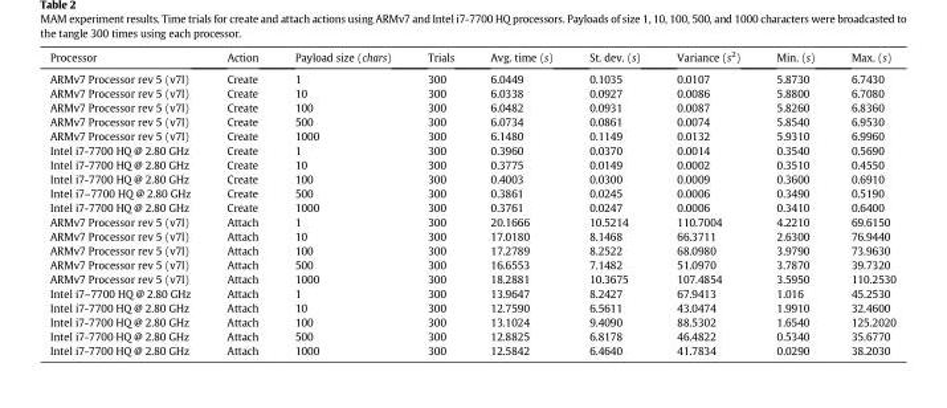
<table><thead><tr><td>Processor</td><td>Action</td><td>Payload size (chars)</td><td>Trials</td><td>Avg. time (s)</td><td>St. dev. (s)</td><td>Variance (s<sup>2</sup>)</td><td>Min. (s)</td><td>Max. (s)</td></tr></thead><tbody><tr><td>ARMv7 Processor rev 5 (v7l)</td><td>Create</td><td>1</td><td>300</td><td>6.0449</td><td>0.1035</td><td>0.0107</td><td>5.8730</td><td>6.7430</td></tr><tr><td>ARMv7 Processor rev 5 (v7l)</td><td>Create</td><td>10</td><td>300</td><td>6.0338</td><td>0.0927</td><td>0.0086</td><td>5.8800</td><td>6.7080</td></tr><tr><td>ARMv7 Processor rev 5 (v7l)</td><td>Create</td><td>100</td><td>300</td><td>6.0482</td><td>0.0931</td><td>0.0087</td><td>5.8260</td><td>6.8360</td></tr><tr><td>ARMv7 Processor rev 5 (v7l)</td><td>Create</td><td>500</td><td>300</td><td>6.0734</td><td>0.0861</td><td>0.0074</td><td>5.8540</td><td>6.9530</td></tr><tr><td>ARMv7 Processor rev 5 (v7l)</td><td>Create</td><td>1000</td><td>300</td><td>6.1480</td><td>0.1149</td><td>0.0132</td><td>5.9310</td><td>6.9960</td></tr><tr><td>Intel i7-7700 HQ @ 2.80 GHz</td><td>Create</td><td>1</td><td>300</td><td>0.3960</td><td>0.0370</td><td>0.0014</td><td>0.3540</td><td>0.5690</td></tr><tr><td>Intel i7-7700 HQ @ 2.80 GHz</td><td>Create</td><td>10</td><td>300</td><td>0.3775</td><td>0.0149</td><td>0.0002</td><td>0.3510</td><td>0.4550</td></tr><tr><td>Intel i7-7700 HQ @ 2.80 GHz</td><td>Create</td><td>100</td><td>300</td><td>0.4003</td><td>0.0300</td><td>0.0009</td><td>0.3600</td><td>0.6910</td></tr><tr><td>Intel i7–7700 HQ @ 2.80 GHz</td><td>Create</td><td>500</td><td>300</td><td>0.3861</td><td>0.0245</td><td>0.0006</td><td>0.3490</td><td>0.5190</td></tr><tr><td>Intel i7-7700 HQ @ 2.80 GHz</td><td>Create</td><td>1000</td><td>300</td><td>0.3761</td><td>0.0247</td><td>0.0006</td><td>0.3410</td><td>0.6400</td></tr><tr><td>ARMv7 Processor rev 5 (v7l)</td><td>Attach</td><td>1</td><td>300</td><td>20.1666</td><td>10.5214</td><td>110.7004</td><td>4.2210</td><td>69.6150</td></tr><tr><td>ARMv7 Processor rev 5 (v7l)</td><td>Attach</td><td>10</td><td>300</td><td>17.0180</td><td>8.1468</td><td>66.3711</td><td>2.6300</td><td>76.9440</td></tr><tr><td>ARMv7 Processor rev 5 (v7l)</td><td>Attach</td><td>100</td><td>300</td><td>17.2789</td><td>8.2522</td><td>68.0980</td><td>3.9790</td><td>73.9630</td></tr><tr><td>ARMv7 Processor rev 5 (v7l)</td><td>Attach</td><td>500</td><td>300</td><td>16.6553</td><td>7.1482</td><td>51.0970</td><td>3.7870</td><td>39.7320</td></tr><tr><td>ARMv7 Processor rev 5 (v7l)</td><td>Attach</td><td>1000</td><td>300</td><td>18.2881</td><td>10.3675</td><td>107.4854</td><td>3.5950</td><td>110.2530</td></tr><tr><td>Intel i7–7700 HQ @ 2.80 GHz</td><td>Attach</td><td>1</td><td>300</td><td>13.9647</td><td>8.2427</td><td>67.9413</td><td>1.016</td><td>45.2530</td></tr><tr><td>Intel i7-7700 HQ @ 2.80 GHz</td><td>Attach</td><td>10</td><td>300</td><td>12.7590</td><td>6.5611</td><td>43.0474</td><td>1.9910</td><td>32.4600</td></tr><tr><td>Intel i7-7700 HQ @ 2.80 GHz</td><td>Attach</td><td>100</td><td>300</td><td>13.1024</td><td>9.4090</td><td>88.5302</td><td>1.6540</td><td>125.2020</td></tr><tr><td>Intel i7-7700 HQ @ 2.80 GHz</td><td>Attach</td><td>500</td><td>300</td><td>12.8825</td><td>6.8178</td><td>46.4822</td><td>0.5340</td><td>35.6770</td></tr><tr><td>Intel i7-7700 HQ @ 2.80 GHz</td><td>Attach</td><td>1000</td><td>300</td><td>12.5842</td><td>6.4640</td><td>41.7834</td><td>0.0290</td><td>38.2030</td></tr></tbody></table>